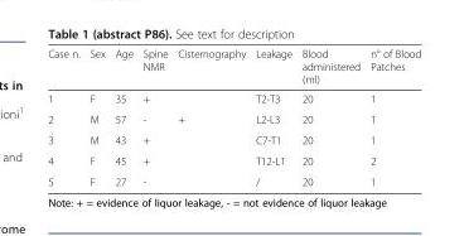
<table><thead><tr><td>Case n.</td><td>Sex</td><td>Age</td><td>Spine NMR</td><td>Cisternography</td><td>Leakage</td><td>Blood administered (ml)</td><td>n° of Blood Patches</td></tr></thead><tbody><tr><td>1</td><td>F</td><td>35</td><td>+</td><td></td><td>T2-T3</td><td>20</td><td>1</td></tr><tr><td>2</td><td>M</td><td>57</td><td>-</td><td>+</td><td>L2-L3</td><td>20</td><td>1</td></tr><tr><td>3</td><td>M</td><td>43</td><td>+</td><td></td><td>C7-T1</td><td>20</td><td>1</td></tr><tr><td>4</td><td>F</td><td>45</td><td>+</td><td></td><td>T12-L1</td><td>20</td><td>2</td></tr><tr><td>5</td><td>F</td><td>27</td><td>-</td><td></td><td>/</td><td>20</td><td>1</td></tr></tbody></table>